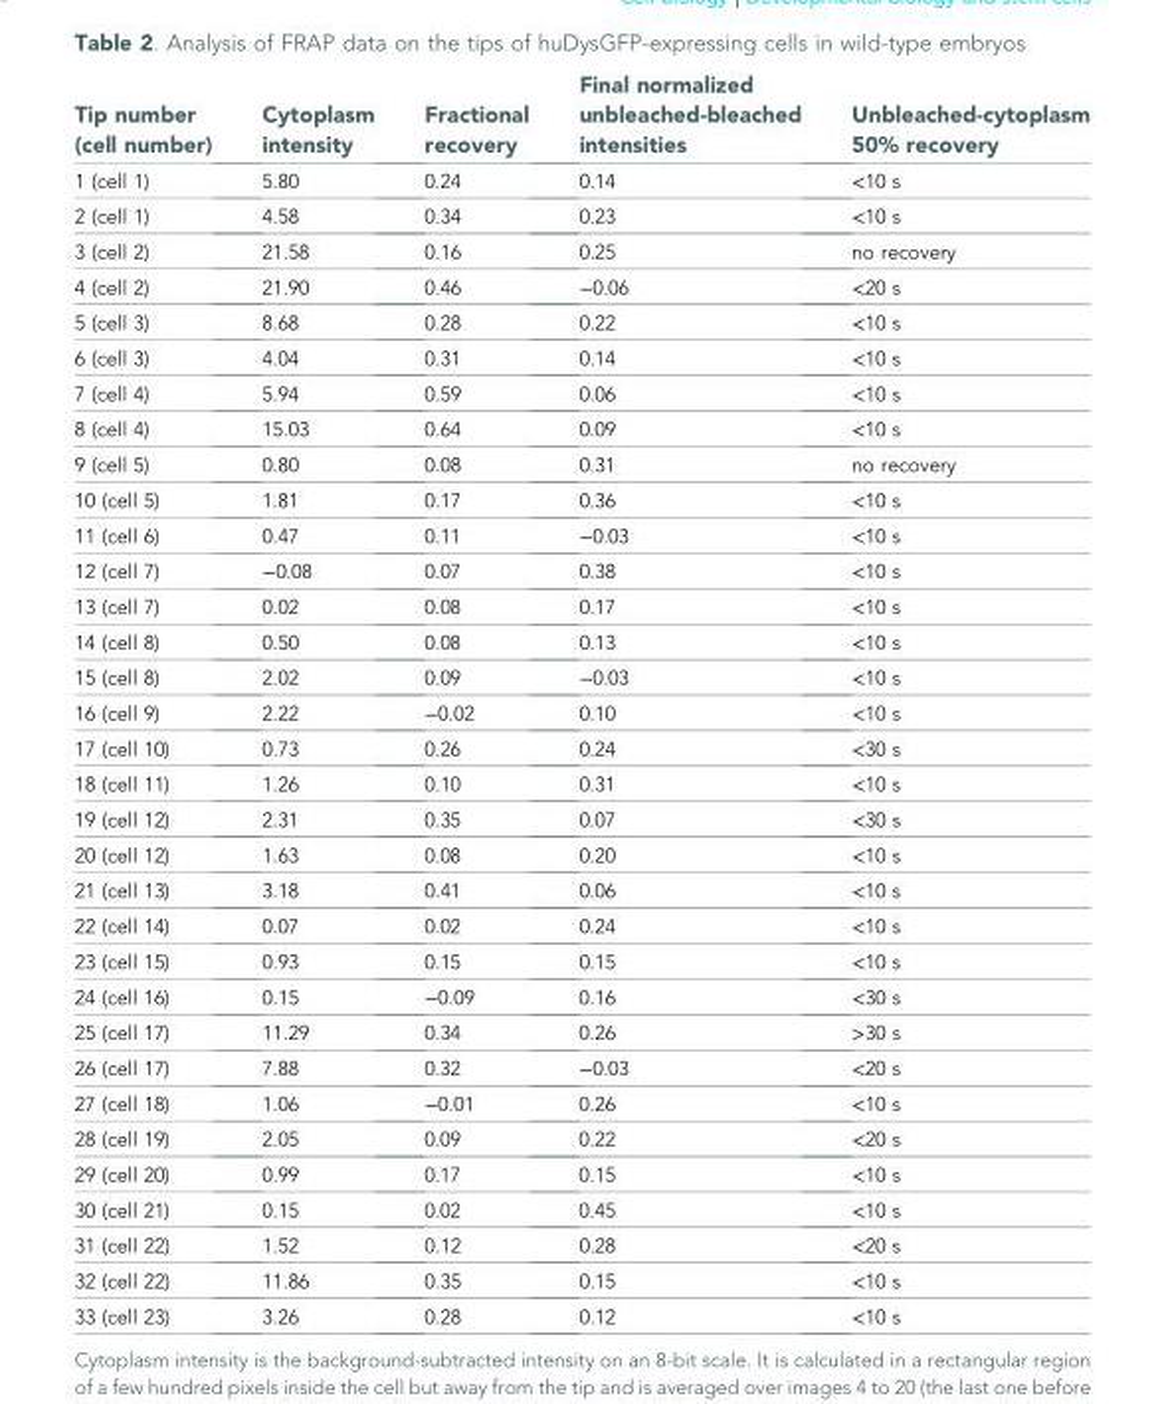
<table><thead><tr><td>Tip number (cell number)</td><td>Cytoplasm intensity</td><td>Fractional recovery</td><td>Final normalized unbleached-bleached intensities</td><td>Unbleached-cytoplasm 50% recovery</td></tr></thead><tbody><tr><td>1 (cell 1)</td><td>5.80</td><td>0.24</td><td>0.14</td><td>&lt;10 s</td></tr><tr><td>2 (cell 1)</td><td>4.58</td><td>0.34</td><td>0.23</td><td>&lt;10 s</td></tr><tr><td>3 (cell 2)</td><td>21.58</td><td>0.16</td><td>0.25</td><td>no recovery</td></tr><tr><td>4 (cell 2)</td><td>21.90</td><td>0.46</td><td>−0.06</td><td>&lt;20 s</td></tr><tr><td>5 (cell 3)</td><td>8.68</td><td>0.28</td><td>0.22</td><td>&lt;10 s</td></tr><tr><td>6 (cell 3)</td><td>4.04</td><td>0.31</td><td>0.14</td><td>&lt;10 s</td></tr><tr><td>7 (cell 4)</td><td>5.94</td><td>0.59</td><td>0.06</td><td>&lt;10 s</td></tr><tr><td>8 (cell 4)</td><td>15.03</td><td>0.64</td><td>0.09</td><td>&lt;10 s</td></tr><tr><td>9 (cell 5)</td><td>0.80</td><td>0.08</td><td>0.31</td><td>no recovery</td></tr><tr><td>10 (cell 5)</td><td>1.81</td><td>0.17</td><td>0.36</td><td>&lt;10 s</td></tr><tr><td>11 (cell 6)</td><td>0.47</td><td>0.11</td><td>−0.03</td><td>&lt;10 s</td></tr><tr><td>12 (cell 7)</td><td>−0.08</td><td>0.07</td><td>0.38</td><td>&lt;10 s</td></tr><tr><td>13 (cell 7)</td><td>0.02</td><td>0.08</td><td>0.17</td><td>&lt;10 s</td></tr><tr><td>14 (cell 8)</td><td>0.50</td><td>0.08</td><td>0.13</td><td>&lt;10 s</td></tr><tr><td>15 (cell 8)</td><td>2.02</td><td>0.09</td><td>−0.03</td><td>&lt;10 s</td></tr><tr><td>16 (cell 9)</td><td>2.22</td><td>−0.02</td><td>0.10</td><td>&lt;10 s</td></tr><tr><td>17 (cell 10)</td><td>0.73</td><td>0.26</td><td>0.24</td><td>&lt;30 s</td></tr><tr><td>18 (cell 11)</td><td>1.26</td><td>0.10</td><td>0.31</td><td>&lt;10 s</td></tr><tr><td>19 (cell 12)</td><td>2.31</td><td>0.35</td><td>0.07</td><td>&lt;30 s</td></tr><tr><td>20 (cell 12)</td><td>1.63</td><td>0.08</td><td>0.20</td><td>&lt;10 s</td></tr><tr><td>21 (cell 13)</td><td>3.18</td><td>0.41</td><td>0.06</td><td>&lt;10 s</td></tr><tr><td>22 (cell 14)</td><td>0.07</td><td>0.02</td><td>0.24</td><td>&lt;10 s</td></tr><tr><td>23 (cell 15)</td><td>0.93</td><td>0.15</td><td>0.15</td><td>&lt;10 s</td></tr><tr><td>24 (cell 16)</td><td>0.15</td><td>−0.09</td><td>0.16</td><td>&lt;30 s</td></tr><tr><td>25 (cell 17)</td><td>11.29</td><td>0.34</td><td>0.26</td><td>&gt;30 s</td></tr><tr><td>26 (cell 17)</td><td>7.88</td><td>0.32</td><td>−0.03</td><td>&lt;20 s</td></tr><tr><td>27 (cell 18)</td><td>1.06</td><td>−0.01</td><td>0.26</td><td>&lt;10 s</td></tr><tr><td>28 (cell 19)</td><td>2.05</td><td>0.09</td><td>0.22</td><td>&lt;20 s</td></tr><tr><td>29 (cell 20)</td><td>0.99</td><td>0.17</td><td>0.15</td><td>&lt;10 s</td></tr><tr><td>30 (cell 21)</td><td>0.15</td><td>0.02</td><td>0.45</td><td>&lt;10 s</td></tr><tr><td>31 (cell 22)</td><td>1.52</td><td>0.12</td><td>0.28</td><td>&lt;20 s</td></tr><tr><td>32 (cell 22)</td><td>11.86</td><td>0.35</td><td>0.15</td><td>&lt;10 s</td></tr><tr><td>33 (cell 23)</td><td>3.26</td><td>0.28</td><td>0.12</td><td>&lt;10 s</td></tr></tbody></table>